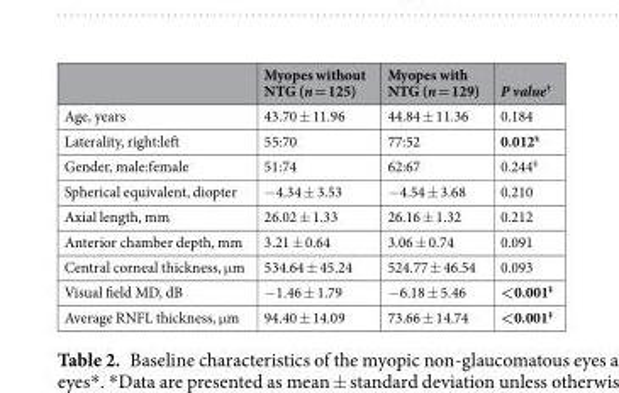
<table><thead><tr><td></td><td>Myopes without NTG (n = 125)</td><td>Myopes with NTG (n = 129)</td><td>P value<sup>†</sup></td></tr></thead><tbody><tr><td>Age, years</td><td>43.70 ± 11.96</td><td>44.84 ± 11.36</td><td>0.184</td></tr><tr><td>Laterality, right:left</td><td>55:70</td><td>77:52</td><td>0.012<sup>§</sup></td></tr><tr><td>Gender, male:female</td><td>51:74</td><td>62:67</td><td>0.244<sup>§</sup></td></tr><tr><td>Spherical equivalent, diopter</td><td>−4.34 ± 3.53</td><td>−4.54 ± 3.68</td><td>0.210</td></tr><tr><td>Axial length, mm</td><td>26.02 ± 1.33</td><td>26.16 ± 1.32</td><td>0.212</td></tr><tr><td>Anterior chamber depth, mm</td><td>3.21 ± 0.64</td><td>3.06 ± 0.74</td><td>0.091</td></tr><tr><td>Central corneal thickness, μm</td><td>534.64 ± 45.24</td><td>524.77 ± 46.54</td><td>0.093</td></tr><tr><td>Visual field MD, dB</td><td>−1.46 ± 1.79</td><td>−6.18 ± 5.46</td><td>&lt;0.001<sup>‡</sup></td></tr><tr><td>Average RNFL thickness, μm</td><td>94.40 ± 14.09</td><td>73.66 ± 14.74</td><td>&lt;0.001<sup>‡</sup></td></tr></tbody></table>